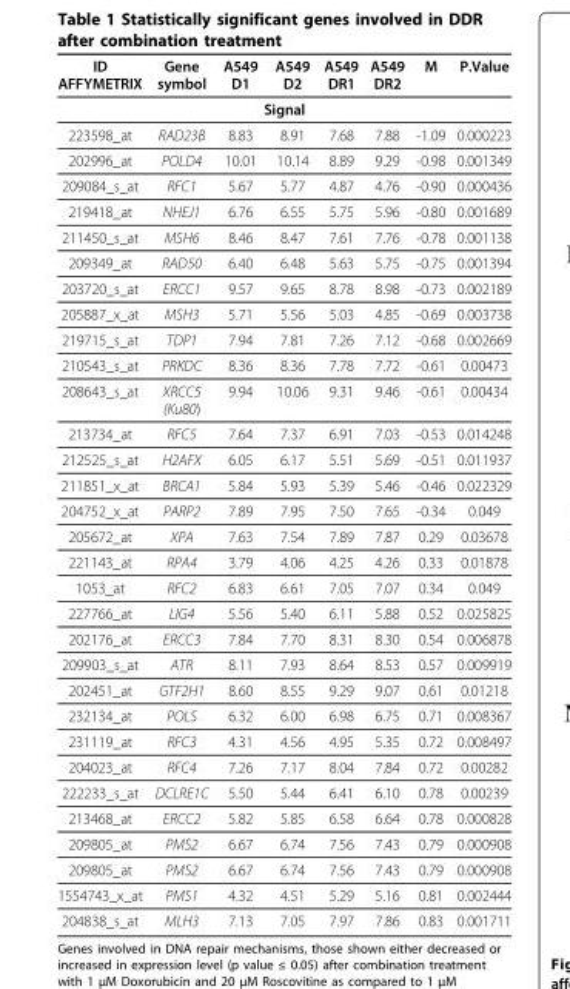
<table><thead><tr><td>ID AFFYMETRIX</td><td>Gene symbol</td><td>A549 D1</td><td>A549 D2</td><td>A549 DR1</td><td>A549 DR2</td><td>M</td><td>P.Value</td></tr></thead><tbody><tr><td colspan="8">Signal</td></tr><tr><td>223598_at</td><td>RAD23B</td><td>8.83</td><td>8.91</td><td>7.68</td><td>7.88</td><td>-1.09</td><td>0.000223</td></tr><tr><td>202996_at</td><td>POLD4</td><td>10.01</td><td>10.14</td><td>8.89</td><td>9.29</td><td>-0.98</td><td>0.001349</td></tr><tr><td>209084_s_at</td><td>RFC1</td><td>5.67</td><td>5.77</td><td>4.87</td><td>4.76</td><td>-0.90</td><td>0.000436</td></tr><tr><td>219418_at</td><td>NHEJ1</td><td>6.76</td><td>6.55</td><td>5.75</td><td>5.96</td><td>-0.80</td><td>0.001689</td></tr><tr><td>211450_s_at</td><td>MSH6</td><td>8.46</td><td>8.47</td><td>7.61</td><td>7.76</td><td>-0.78</td><td>0.001138</td></tr><tr><td>209349_at</td><td>RAD50</td><td>6.40</td><td>6.48</td><td>5.63</td><td>5.75</td><td>-0.75</td><td>0.001394</td></tr><tr><td>203720_s_at</td><td>ERCC1</td><td>9.57</td><td>9.65</td><td>8.78</td><td>8.98</td><td>-0.73</td><td>0.002189</td></tr><tr><td>205887_x_at</td><td>MSH3</td><td>5.71</td><td>5.56</td><td>5.03</td><td>4.85</td><td>-0.69</td><td>0.003738</td></tr><tr><td>219715_s_at</td><td>TDP1</td><td>7.94</td><td>7.81</td><td>7.26</td><td>7.12</td><td>-0.68</td><td>0.002669</td></tr><tr><td>210543_s_at</td><td>PRKDC</td><td>8.36</td><td>8.36</td><td>7.78</td><td>7.72</td><td>-0.61</td><td>0.00473</td></tr><tr><td>208643_s_at</td><td>XRCC5 (Ku80)</td><td>9.94</td><td>10.06</td><td>9.31</td><td>9.46</td><td>-0.61</td><td>0.00434</td></tr><tr><td>213734_at</td><td>RFC5</td><td>7.64</td><td>7.37</td><td>6.91</td><td>7.03</td><td>-0.53</td><td>0.014248</td></tr><tr><td>212525_s_at</td><td>H2AFX</td><td>6.05</td><td>6.17</td><td>5.51</td><td>5.69</td><td>-0.51</td><td>0.011937</td></tr><tr><td>211851_x_at</td><td>BRCA1</td><td>5.84</td><td>5.93</td><td>5.39</td><td>5.46</td><td>-0.46</td><td>0.022329</td></tr><tr><td>204752_x_at</td><td>PARP2</td><td>7.89</td><td>7.95</td><td>7.50</td><td>7.65</td><td>-0.34</td><td>0.049</td></tr><tr><td>205672_at</td><td>XPA</td><td>7.63</td><td>7.54</td><td>7.89</td><td>7.87</td><td>0.29</td><td>0.03678</td></tr><tr><td>221143_at</td><td>RPA4</td><td>3.79</td><td>4.06</td><td>4.25</td><td>4.26</td><td>0.33</td><td>0.01878</td></tr><tr><td>1053_at</td><td>RFC2</td><td>6.83</td><td>6.61</td><td>7.05</td><td>7.07</td><td>0.34</td><td>0.049</td></tr><tr><td>227766_at</td><td>LIG4</td><td>5.56</td><td>5.40</td><td>6.11</td><td>5.88</td><td>0.52</td><td>0.025825</td></tr><tr><td>202176_at</td><td>ERCC3</td><td>7.84</td><td>7.70</td><td>8.31</td><td>8.30</td><td>0.54</td><td>0.006878</td></tr><tr><td>209903_s_at</td><td>ATR</td><td>8.11</td><td>7.93</td><td>8.64</td><td>8.53</td><td>0.57</td><td>0.009919</td></tr><tr><td>202451_at</td><td>GTF2H1</td><td>8.60</td><td>8.55</td><td>9.29</td><td>9.07</td><td>0.61</td><td>0.01218</td></tr><tr><td>232134_at</td><td>POLS</td><td>6.32</td><td>6.00</td><td>6.98</td><td>6.75</td><td>0.71</td><td>0.008367</td></tr><tr><td>231119_at</td><td>RFC3</td><td>4.31</td><td>4.56</td><td>4.95</td><td>5.35</td><td>0.72</td><td>0.008497</td></tr><tr><td>204023_at</td><td>RFC4</td><td>7.26</td><td>7.17</td><td>8.04</td><td>7.84</td><td>0.72</td><td>0.00282</td></tr><tr><td>222233_s_at</td><td>DCLRE1C</td><td>5.50</td><td>5.44</td><td>6.41</td><td>6.10</td><td>0.78</td><td>0.00239</td></tr><tr><td>213468_at</td><td>ERCC2</td><td>5.82</td><td>5.85</td><td>6.58</td><td>6.64</td><td>0.78</td><td>0.000828</td></tr><tr><td>209805_at</td><td>PMS2</td><td>6.67</td><td>6.74</td><td>7.56</td><td>7.43</td><td>0.79</td><td>0.000908</td></tr><tr><td>209805_at</td><td>PMS2</td><td>6.67</td><td>6.74</td><td>7.56</td><td>7.43</td><td>0.79</td><td>0.000908</td></tr><tr><td>1554743_x_at</td><td>PMS1</td><td>4.32</td><td>4.51</td><td>5.29</td><td>5.16</td><td>0.81</td><td>0.002444</td></tr><tr><td>204838_s_at</td><td>MLH3</td><td>7.13</td><td>7.05</td><td>7.97</td><td>7.86</td><td>0.83</td><td>0.001711</td></tr></tbody></table>